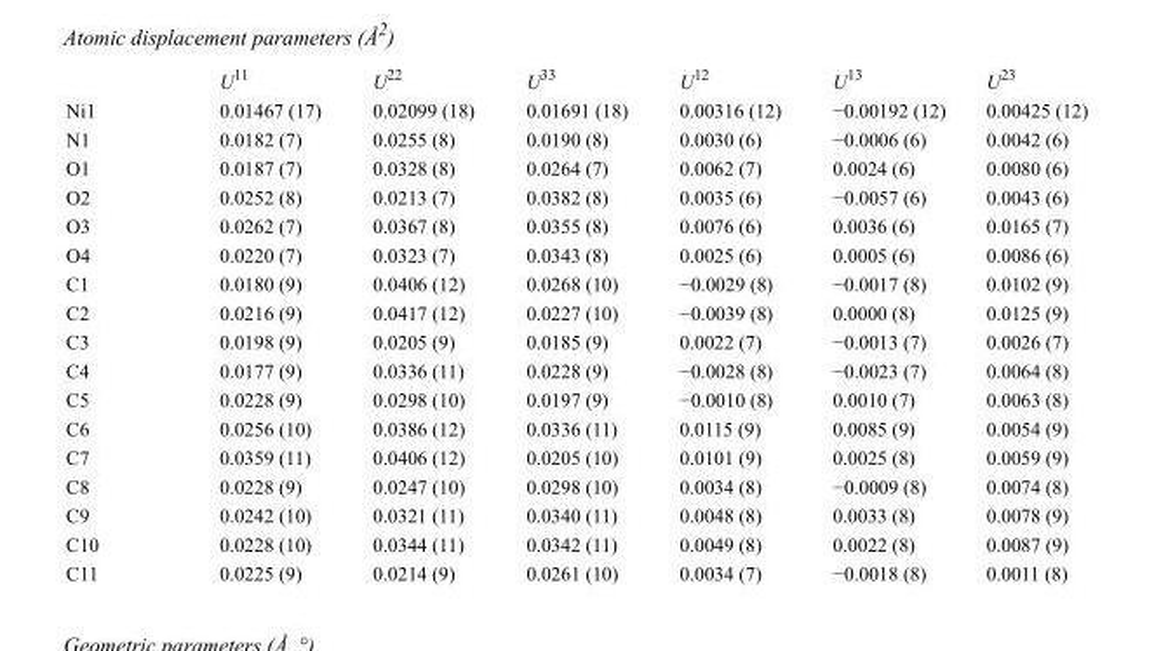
<table><thead><tr><td></td><td>U<sup>11</sup></td><td>U<sup>22</sup></td><td>U<sup>33</sup></td><td>U<sup>12</sup></td><td>U<sup>13</sup></td><td>U<sup>23</sup></td></tr></thead><tbody><tr><td>Ni1</td><td>0.01467 (17)</td><td>0.02099 (18)</td><td>0.01691 (18)</td><td>0.00316 (12)</td><td>−0.00192 (12)</td><td>0.00425 (12)</td></tr><tr><td>N1</td><td>0.0182 (7)</td><td>0.0255 (8)</td><td>0.0190 (8)</td><td>0.0030 (6)</td><td>−0.0006 (6)</td><td>0.0042 (6)</td></tr><tr><td>O1</td><td>0.0187 (7)</td><td>0.0328 (8)</td><td>0.0264 (7)</td><td>0.0062 (7)</td><td>0.0024 (6)</td><td>0.0080 (6)</td></tr><tr><td>O2</td><td>0.0252 (8)</td><td>0.0213 (7)</td><td>0.0382 (8)</td><td>0.0035 (6)</td><td>−0.0057 (6)</td><td>0.0043 (6)</td></tr><tr><td>O3</td><td>0.0262 (7)</td><td>0.0367 (8)</td><td>0.0355 (8)</td><td>0.0076 (6)</td><td>0.0036 (6)</td><td>0.0165 (7)</td></tr><tr><td>O4</td><td>0.0220 (7)</td><td>0.0323 (7)</td><td>0.0343 (8)</td><td>0.0025 (6)</td><td>0.0005 (6)</td><td>0.0086 (6)</td></tr><tr><td>C1</td><td>0.0180 (9)</td><td>0.0406 (12)</td><td>0.0268 (10)</td><td>−0.0029 (8)</td><td>−0.0017 (8)</td><td>0.0102 (9)</td></tr><tr><td>C2</td><td>0.0216 (9)</td><td>0.0417 (12)</td><td>0.0227 (10)</td><td>−0.0039 (8)</td><td>0.0000 (8)</td><td>0.0125 (9)</td></tr><tr><td>C3</td><td>0.0198 (9)</td><td>0.0205 (9)</td><td>0.0185 (9)</td><td>0.0022 (7)</td><td>−0.0013 (7)</td><td>0.0026 (7)</td></tr><tr><td>C4</td><td>0.0177 (9)</td><td>0.0336 (11)</td><td>0.0228 (9)</td><td>−0.0028 (8)</td><td>−0.0023 (7)</td><td>0.0064 (8)</td></tr><tr><td>C5</td><td>0.0228 (9)</td><td>0.0298 (10)</td><td>0.0197 (9)</td><td>−0.0010 (8)</td><td>0.0010 (7)</td><td>0.0063 (8)</td></tr><tr><td>C6</td><td>0.0256 (10)</td><td>0.0386 (12)</td><td>0.0336 (11)</td><td>0.0115 (9)</td><td>0.0085 (9)</td><td>0.0054 (9)</td></tr><tr><td>C7</td><td>0.0359 (11)</td><td>0.0406 (12)</td><td>0.0205 (10)</td><td>0.0101 (9)</td><td>0.0025 (8)</td><td>0.0059 (9)</td></tr><tr><td>C8</td><td>0.0228 (9)</td><td>0.0247 (10)</td><td>0.0298 (10)</td><td>0.0034 (8)</td><td>−0.0009 (8)</td><td>0.0074 (8)</td></tr><tr><td>C9</td><td>0.0242 (10)</td><td>0.0321 (11)</td><td>0.0340 (11)</td><td>0.0048 (8)</td><td>0.0033 (8)</td><td>0.0078 (9)</td></tr><tr><td>C10</td><td>0.0228 (10)</td><td>0.0344 (11)</td><td>0.0342 (11)</td><td>0.0049 (8)</td><td>0.0022 (8)</td><td>0.0087 (9)</td></tr><tr><td>C11</td><td>0.0225 (9)</td><td>0.0214 (9)</td><td>0.0261 (10)</td><td>0.0034 (7)</td><td>−0.0018 (8)</td><td>0.0011 (8)</td></tr></tbody></table>